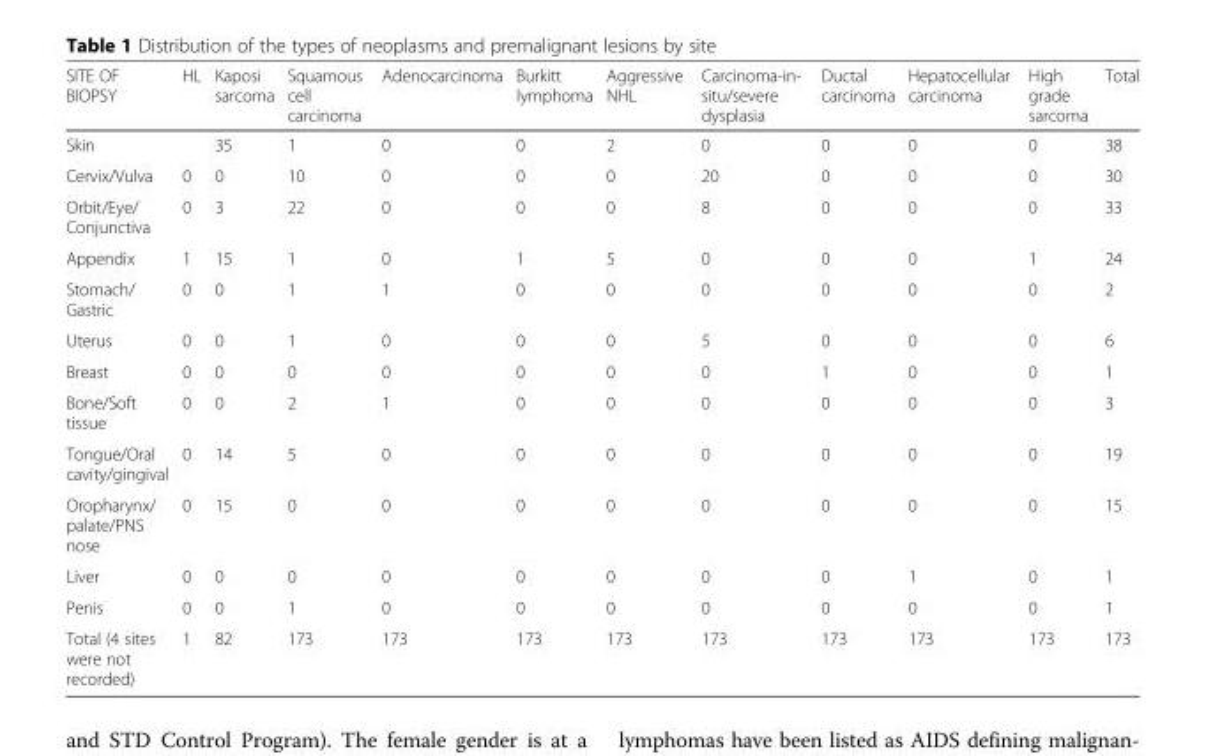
<table><thead><tr><td>SITE OF BIOPSY</td><td>HL</td><td>Kaposi sarcoma</td><td>Squamous cell carcinoma</td><td>Adenocarcinoma</td><td>Burkitt lymphoma</td><td>Aggressive NHL</td><td>Carcinoma-in- situ/severe dysplasia</td><td>Ductal carcinoma</td><td>Hepatocellular carcinoma</td><td>High grade sarcoma</td><td>Total</td></tr></thead><tbody><tr><td>Skin</td><td></td><td>35</td><td>1</td><td>0</td><td>0</td><td>2</td><td>0</td><td>0</td><td>0</td><td>0</td><td>38</td></tr><tr><td>Cervix/Vulva</td><td>0</td><td>0</td><td>10</td><td>0</td><td>0</td><td>0</td><td>20</td><td>0</td><td>0</td><td>0</td><td>30</td></tr><tr><td>Orbit/Eye/ Conjunctiva</td><td>0</td><td>3</td><td>22</td><td>0</td><td>0</td><td>0</td><td>8</td><td>0</td><td>0</td><td>0</td><td>33</td></tr><tr><td>Appendix</td><td>1</td><td>15</td><td>1</td><td>0</td><td>1</td><td>5</td><td>0</td><td>0</td><td>0</td><td>1</td><td>24</td></tr><tr><td>Stomach/ Gastric</td><td>0</td><td>0</td><td>1</td><td>1</td><td>0</td><td>0</td><td>0</td><td>0</td><td>0</td><td>0</td><td>2</td></tr><tr><td>Uterus</td><td>0</td><td>0</td><td>1</td><td>0</td><td>0</td><td>0</td><td>5</td><td>0</td><td>0</td><td>0</td><td>6</td></tr><tr><td>Breast</td><td>0</td><td>0</td><td>0</td><td>0</td><td>0</td><td>0</td><td>0</td><td>1</td><td>0</td><td>0</td><td>1</td></tr><tr><td>Bone/Soft tissue</td><td>0</td><td>0</td><td>2</td><td>1</td><td>0</td><td>0</td><td>0</td><td>0</td><td>0</td><td>0</td><td>3</td></tr><tr><td>Tongue/Oral cavity/gingival</td><td>0</td><td>14</td><td>5</td><td>0</td><td>0</td><td>0</td><td>0</td><td>0</td><td>0</td><td>0</td><td>19</td></tr><tr><td>Oropharynx/ palate/PNS nose</td><td>0</td><td>15</td><td>0</td><td>0</td><td>0</td><td>0</td><td>0</td><td>0</td><td>0</td><td>0</td><td>15</td></tr><tr><td>Liver</td><td>0</td><td>0</td><td>0</td><td>0</td><td>0</td><td>0</td><td>0</td><td>0</td><td>1</td><td>0</td><td>1</td></tr><tr><td>Penis</td><td>0</td><td>0</td><td>1</td><td>0</td><td>0</td><td>0</td><td>0</td><td>0</td><td>0</td><td>0</td><td>1</td></tr><tr><td>Total (4 sites were not recorded)</td><td>1</td><td>82</td><td>173</td><td>173</td><td>173</td><td>173</td><td>173</td><td>173</td><td>173</td><td>173</td><td>173</td></tr></tbody></table>